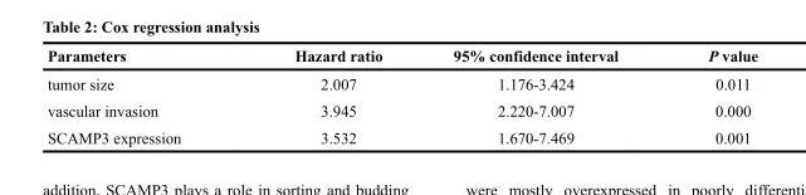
<table><thead><tr><td>Parameters</td><td>Hazard ratio</td><td>95% confidence interval</td><td>P value</td></tr></thead><tbody><tr><td>tumor size</td><td>2.007</td><td>1.176-3.424</td><td>0.011</td></tr><tr><td>vascular invasion</td><td>3.945</td><td>2.220-7.007</td><td>0.000</td></tr><tr><td>SCAMP3 expression</td><td>3.532</td><td>1.670-7.469</td><td>0.001</td></tr></tbody></table>